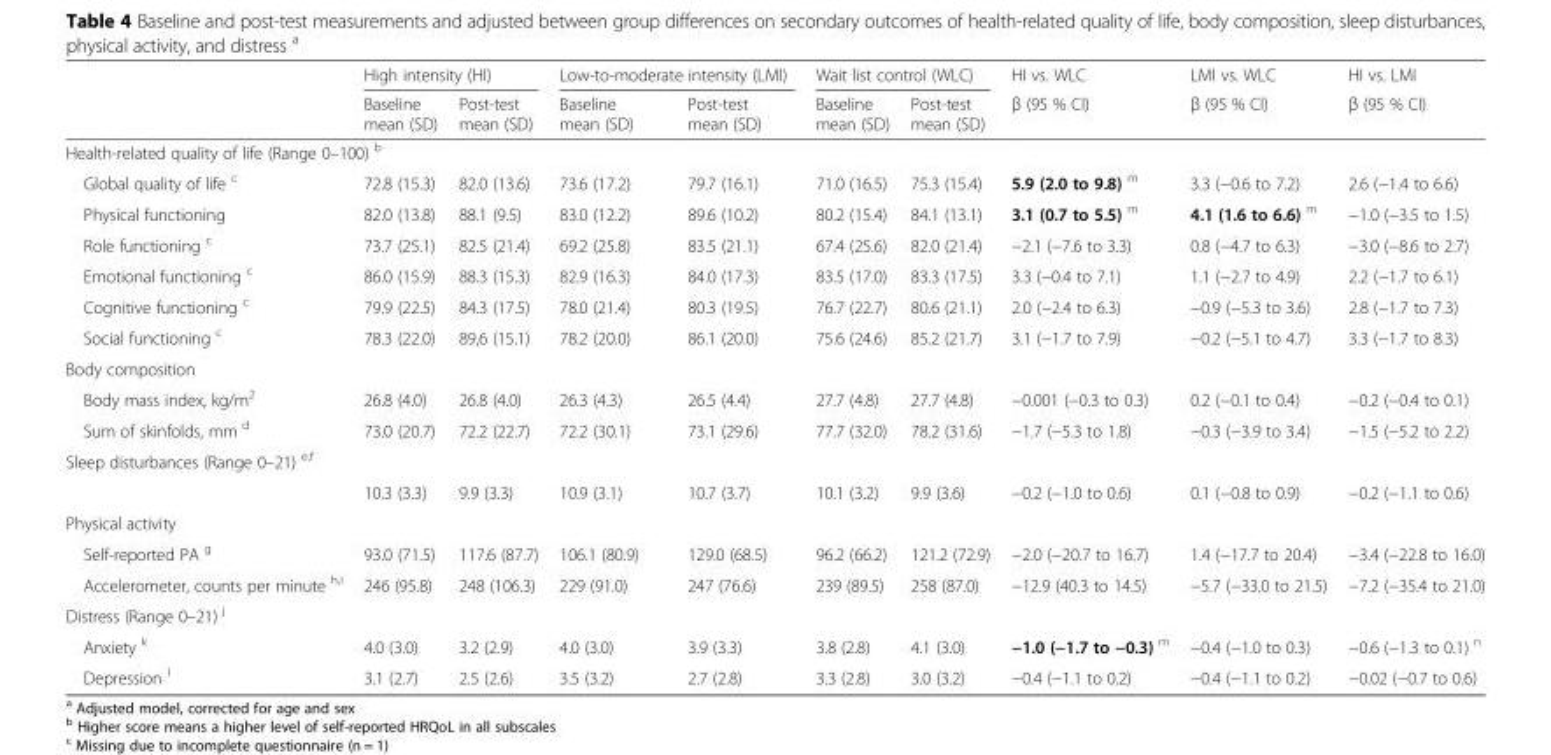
<table><thead><tr><td rowspan="2"></td><td colspan="2">High intensity (HI)</td><td colspan="2">Low-to-moderate intensity (LMI)</td><td colspan="2">Wait list control (WLC)</td><td rowspan="2">HI vs. WLC β (95 % CI)</td><td rowspan="2">LMI vs. WLC β (95 % CI)</td><td rowspan="2">HI vs. LMI β (95 % CI)</td></tr><tr><td>Baseline mean (SD)</td><td>Post-test mean (SD)</td><td>Baseline mean (SD)</td><td>Post-test mean (SD)</td><td>Baseline mean (SD)</td><td>Post-test mean (SD)</td></tr></thead><tbody><tr><td colspan="10">Health-related quality of life (Range 0–100) <sup>b</sup></td></tr><tr><td>Global quality of life <sup>c</sup></td><td>72.8 (15.3)</td><td>82.0 (13.6)</td><td>73.6 (17.2)</td><td>79.7 (16.1)</td><td>71.0 (16.5)</td><td>75.3 (15.4)</td><td>5.9 (2.0 to 9.8) <sup>m</sup></td><td>3.3 (−0.6 to 7.2)</td><td>2.6 (−1.4 to 6.6)</td></tr><tr><td>Physical functioning</td><td>82.0 (13.8)</td><td>88.1 (9.5)</td><td>83.0 (12.2)</td><td>89.6 (10.2)</td><td>80.2 (15.4)</td><td>84.1 (13.1)</td><td>3.1 (0.7 to 5.5) <sup>m</sup></td><td>4.1 (1.6 to 6.6) <sup>m</sup></td><td>−1.0 (−3.5 to 1.5)</td></tr><tr><td>Role functioning <sup>c</sup></td><td>73.7 (25.1)</td><td>82.5 (21.4)</td><td>69.2 (25.8)</td><td>83.5 (21.1)</td><td>67.4 (25.6)</td><td>82.0 (21.4)</td><td>−2.1 (−7.6 to 3.3)</td><td>0.8 (−4.7 to 6.3)</td><td>−3.0 (−8.6 to 2.7)</td></tr><tr><td>Emotional functioning <sup>c</sup></td><td>86.0 (15.9)</td><td>88.3 (15.3)</td><td>82.9 (16.3)</td><td>84.0 (17.3)</td><td>83.5 (17.0)</td><td>83.3 (17.5)</td><td>3.3 (−0.4 to 7.1)</td><td>1.1 (−2.7 to 4.9)</td><td>2.2 (−1.7 to 6.1)</td></tr><tr><td>Cognitive functioning <sup>c</sup></td><td>79.9 (22.5)</td><td>84.3 (17.5)</td><td>78.0 (21.4)</td><td>80.3 (19.5)</td><td>76.7 (22.7)</td><td>80.6 (21.1)</td><td>2.0 (−2.4 to 6.3)</td><td>−0.9 (−5.3 to 3.6)</td><td>2.8 (−1.7 to 7.3)</td></tr><tr><td>Social functioning <sup>c</sup></td><td>78.3 (22.0)</td><td>89,6 (15.1)</td><td>78.2 (20.0)</td><td>86.1 (20.0)</td><td>75.6 (24.6)</td><td>85.2 (21.7)</td><td>3.1 (−1.7 to 7.9)</td><td>−0.2 (−5.1 to 4.7)</td><td>3.3 (−1.7 to 8.3)</td></tr><tr><td colspan="10">Body composition</td></tr><tr><td>Body mass index, kg/m<sup>2</sup></td><td>26.8 (4.0)</td><td>26.8 (4.0)</td><td>26.3 (4.3)</td><td>26.5 (4.4)</td><td>27.7 (4.8)</td><td>27.7 (4.8)</td><td>−0.001 (−0.3 to 0.3)</td><td>0.2 (−0.1 to 0.4)</td><td>−0.2 (−0.4 to 0.1)</td></tr><tr><td>Sum of skinfolds, mm <sup>d</sup></td><td>73.0 (20.7)</td><td>72.2 (22.7)</td><td>72.2 (30.1)</td><td>73.1 (29.6)</td><td>77.7 (32.0)</td><td>78.2 (31.6)</td><td>−1.7 (−5.3 to 1.8)</td><td>−0.3 (−3.9 to 3.4)</td><td>−1.5 (−5.2 to 2.2)</td></tr><tr><td colspan="10">Sleep disturbances (Range 0–21) <sup>e,f</sup></td></tr><tr><td></td><td>10.3 (3.3)</td><td>9.9 (3.3)</td><td>10.9 (3.1)</td><td>10.7 (3.7)</td><td>10.1 (3.2)</td><td>9.9 (3.6)</td><td>−0.2 (−1.0 to 0.6)</td><td>0.1 (−0.8 to 0.9)</td><td>−0.2 (−1.1 to 0.6)</td></tr><tr><td colspan="10">Physical activity</td></tr><tr><td>Self-reported PA <sup>g</sup></td><td>93.0 (71.5)</td><td>117.6 (87.7)</td><td>106.1 (80.9)</td><td>129.0 (68.5)</td><td>96.2 (66.2)</td><td>121.2 (72.9)</td><td>−2.0 (−20.7 to 16.7)</td><td>1.4 (−17.7 to 20.4)</td><td>−3.4 (−22.8 to 16.0)</td></tr><tr><td>Accelerometer, counts per minute <sup>h,i</sup></td><td>246 (95.8)</td><td>248 (106.3)</td><td>229 (91.0)</td><td>247 (76.6)</td><td>239 (89.5)</td><td>258 (87.0)</td><td>−12.9 (40.3 to 14.5)</td><td>−5.7 (−33.0 to 21.5)</td><td>−7.2 (−35.4 to 21.0)</td></tr><tr><td colspan="10">Distress (Range 0–21) <sup>j</sup></td></tr><tr><td>Anxiety <sup>k</sup></td><td>4.0 (3.0)</td><td>3.2 (2.9)</td><td>4.0 (3.0)</td><td>3.9 (3.3)</td><td>3.8 (2.8)</td><td>4.1 (3.0)</td><td>−1.0 (−1.7 to −0.3) <sup>m</sup></td><td>−0.4 (−1.0 to 0.3)</td><td>−0.6 (−1.3 to 0.1) <sup>n</sup></td></tr><tr><td>Depression <sup>l</sup></td><td>3.1 (2.7)</td><td>2.5 (2.6)</td><td>3.5 (3.2)</td><td>2.7 (2.8)</td><td>3.3 (2.8)</td><td>3.0 (3.2)</td><td>−0.4 (−1.1 to 0.2)</td><td>−0.4 (−1.1 to 0.2)</td><td>−0.02 (−0.7 to 0.6)</td></tr></tbody></table>